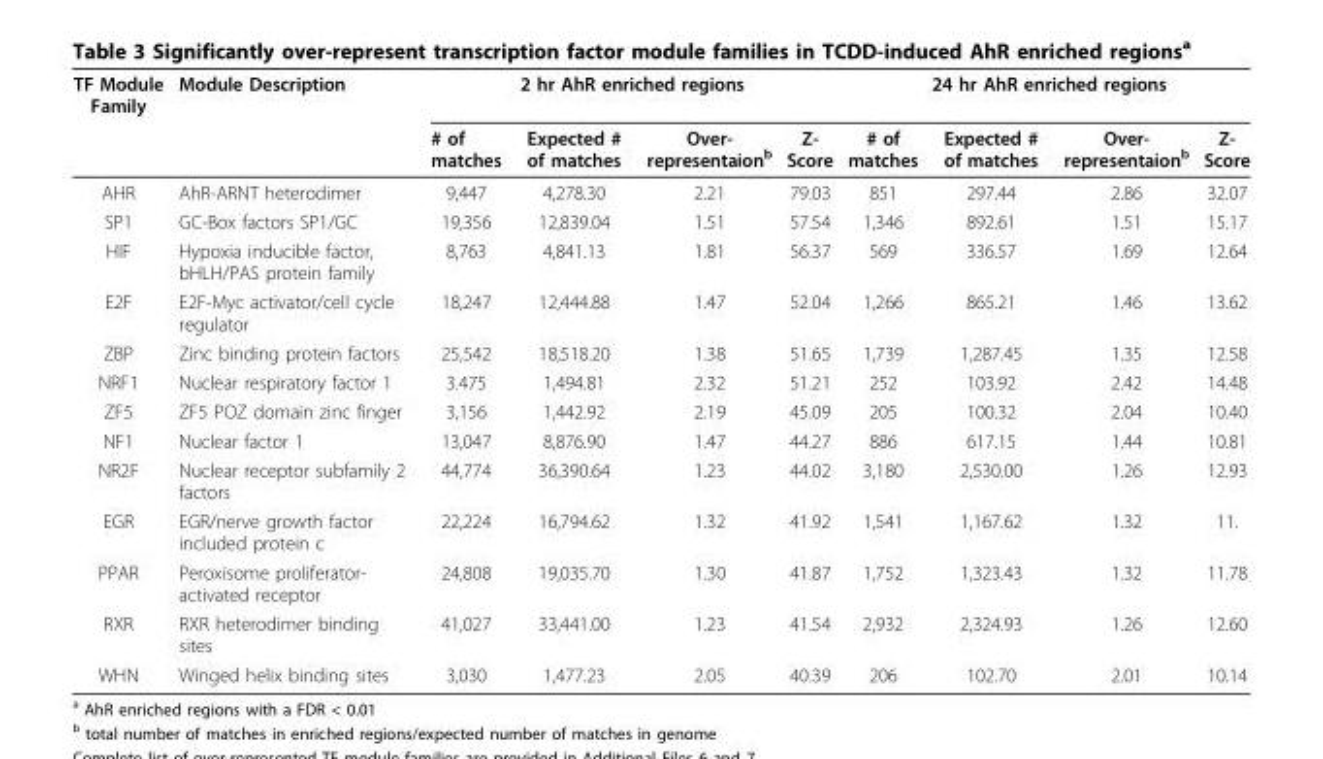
<table><thead><tr><td rowspan="2">TF Module Family</td><td rowspan="2">Module Description</td><td colspan="4">2 hr AhR enriched regions</td><td colspan="4">24 hr AhR enriched regions</td></tr><tr><td># of matches</td><td>Expected # of matches</td><td>Over- representaion<sup>b</sup></td><td>Z- Score</td><td># of matches</td><td>Expected # of matches</td><td>Over- representaion<sup>b</sup></td><td>Z- Score</td></tr></thead><tbody><tr><td>AHR</td><td>AhR-ARNT heterodimer</td><td>9,447</td><td>4,278.30</td><td>2.21</td><td>79.03</td><td>851</td><td>297.44</td><td>2.86</td><td>32.07</td></tr><tr><td>SP1</td><td>GC-Box factors SP1/GC</td><td>19,356</td><td>12,839.04</td><td>1.51</td><td>57.54</td><td>1,346</td><td>892.61</td><td>1.51</td><td>15.17</td></tr><tr><td>HIF</td><td>Hypoxia inducible factor, bHLH/PAS protein family</td><td>8,763</td><td>4,841.13</td><td>1.81</td><td>56.37</td><td>569</td><td>336.57</td><td>1.69</td><td>12.64</td></tr><tr><td>E2F</td><td>E2F-Myc activator/cell cycle regulator</td><td>18,247</td><td>12,444.88</td><td>1.47</td><td>52.04</td><td>1,266</td><td>865.21</td><td>1.46</td><td>13.62</td></tr><tr><td>ZBP</td><td>Zinc binding protein factors</td><td>25,542</td><td>18,518.20</td><td>1.38</td><td>51.65</td><td>1,739</td><td>1,287.45</td><td>1.35</td><td>12.58</td></tr><tr><td>NRF1</td><td>Nuclear respiratory factor 1</td><td>3.475</td><td>1,494.81</td><td>2.32</td><td>51.21</td><td>252</td><td>103.92</td><td>2.42</td><td>14.48</td></tr><tr><td>ZF5</td><td>ZF5 POZ domain zinc finger</td><td>3,156</td><td>1,442.92</td><td>2.19</td><td>45.09</td><td>205</td><td>100.32</td><td>2.04</td><td>10.40</td></tr><tr><td>NF1</td><td>Nuclear factor 1</td><td>13,047</td><td>8,876.90</td><td>1.47</td><td>44.27</td><td>886</td><td>617.15</td><td>1.44</td><td>10.81</td></tr><tr><td>NR2F</td><td>Nuclear receptor subfamily 2 factors</td><td>44,774</td><td>36,390.64</td><td>1.23</td><td>44.02</td><td>3,180</td><td>2,530.00</td><td>1.26</td><td>12.93</td></tr><tr><td>EGR</td><td>EGR/nerve growth factor included protein c</td><td>22,224</td><td>16,794.62</td><td>1.32</td><td>41.92</td><td>1,541</td><td>1,167.62</td><td>1.32</td><td>11.</td></tr><tr><td>PPAR</td><td>Peroxisome proliferator- activated receptor</td><td>24,808</td><td>19,035.70</td><td>1.30</td><td>41.87</td><td>1,752</td><td>1,323.43</td><td>1.32</td><td>11.78</td></tr><tr><td>RXR</td><td>RXR heterodimer binding sites</td><td>41,027</td><td>33,441.00</td><td>1.23</td><td>41.54</td><td>2,932</td><td>2,324.93</td><td>1.26</td><td>12.60</td></tr><tr><td>WHN</td><td>Winged helix binding sites</td><td>3,030</td><td>1,477.23</td><td>2.05</td><td>40.39</td><td>206</td><td>102.70</td><td>2.01</td><td>10.14</td></tr></tbody></table>